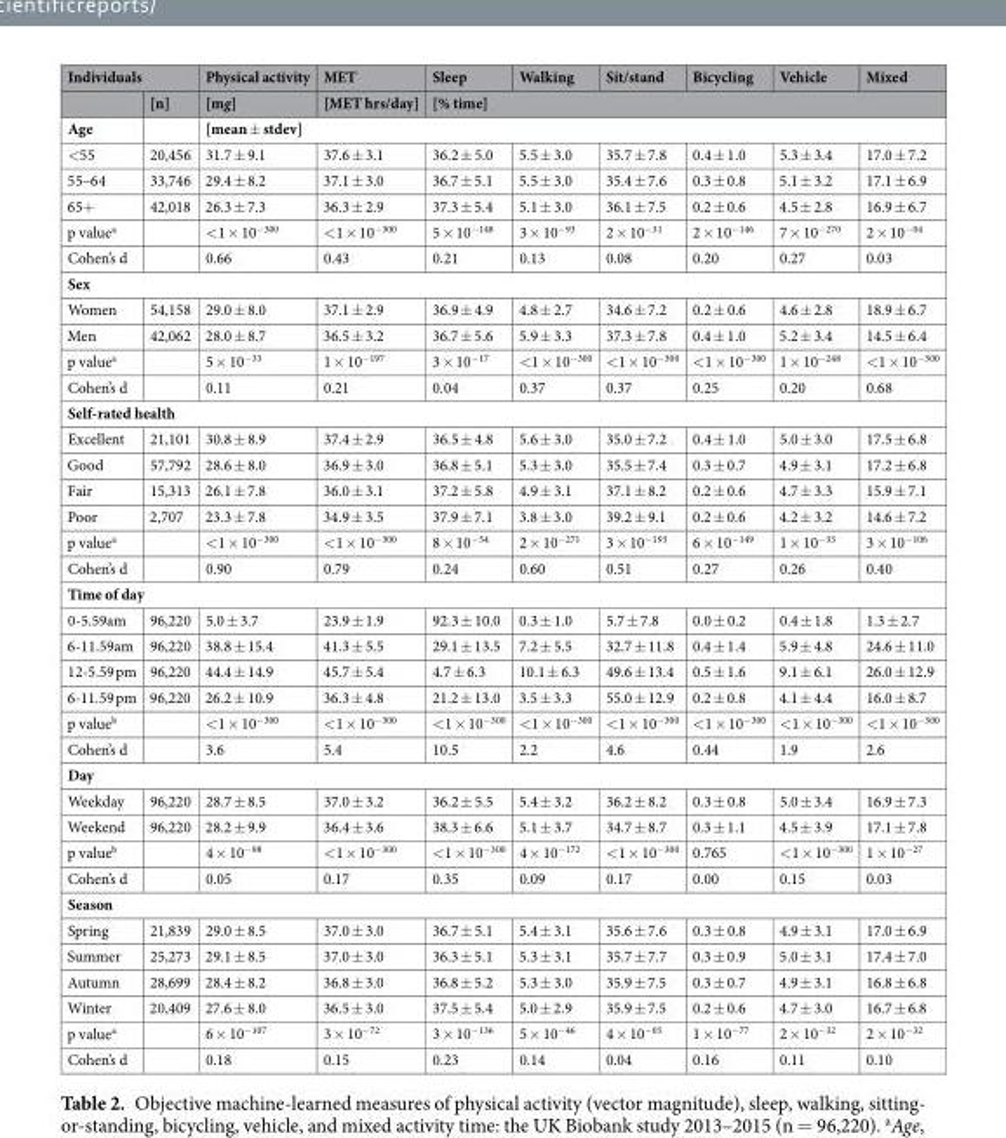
<table><thead><tr><td colspan="2">Individuals</td><td rowspan="2">Physical activity [mg]</td><td rowspan="2">MET [MET hrs/day]</td><td>Sleep</td><td>Walking</td><td>Sit/stand</td><td>Bicycling</td><td>Vehicle</td><td>Mixed</td></tr><tr><td></td><td>[n]</td><td colspan="6">[% time]</td></tr></thead><tbody><tr><td>Age</td><td></td><td colspan="8">[mean ± stdev]</td></tr><tr><td>&lt;55</td><td>20,456</td><td>31.7 ± 9.1</td><td>37.6 ± 3.1</td><td>36.2 ± 5.0</td><td>5.5 ± 3.0</td><td>35.7 ± 7.8</td><td>0.4 ± 1.0</td><td>5.3 ± 3.4</td><td>17.0 ± 7.2</td></tr><tr><td>55–64</td><td>33,746</td><td>29.4 ± 8.2</td><td>37.1 ± 3.0</td><td>36.7 ± 5.1</td><td>5.5 ± 3.0</td><td>35.4 ± 7.6</td><td>0.3 ± 0.8</td><td>5.1 ± 3.2</td><td>17.1 ± 6.9</td></tr><tr><td>65+</td><td>42,018</td><td>26.3 ± 7.3</td><td>36.3 ± 2.9</td><td>37.3 ± 5.4</td><td>5.1 ± 3.0</td><td>36.1 ± 7.5</td><td>0.2 ± 0.6</td><td>4.5 ± 2.8</td><td>16.9 ± 6.7</td></tr><tr><td>p value<sup>a</sup></td><td></td><td>&lt;1 × 10<sup>−300</sup></td><td>&lt;1 × 10<sup>−300</sup></td><td>5 × 10<sup>−148</sup></td><td>3 × 10<sup>−93</sup></td><td>2 × 10<sup>−31</sup></td><td>2 × 10<sup>−146</sup></td><td>7 × 10<sup>−270</sup></td><td>2 × 10<sup>−04</sup></td></tr><tr><td>Cohen’s d</td><td></td><td>0.66</td><td>0.43</td><td>0.21</td><td>0.13</td><td>0.08</td><td>0.20</td><td>0.27</td><td>0.03</td></tr><tr><td colspan="10">Sex</td></tr><tr><td>Women</td><td>54,158</td><td>29.0 ± 8.0</td><td>37.1 ± 2.9</td><td>36.9 ± 4.9</td><td>4.8 ± 2.7</td><td>34.6 ± 7.2</td><td>0.2 ± 0.6</td><td>4.6 ± 2.8</td><td>18.9 ± 6.7</td></tr><tr><td>Men</td><td>42,062</td><td>28.0 ± 8.7</td><td>36.5 ± 3.2</td><td>36.7 ± 5.6</td><td>5.9 ± 3.3</td><td>37.3 ± 7.8</td><td>0.4 ± 1.0</td><td>5.2 ± 3.4</td><td>14.5 ± 6.4</td></tr><tr><td>p value<sup>a</sup></td><td></td><td>5 × 10<sup>−33</sup></td><td>1 × 10<sup>−197</sup></td><td>3 × 10<sup>−17</sup></td><td>&lt;1 × 10<sup>−300</sup></td><td>&lt;1 × 10<sup>−300</sup></td><td>&lt;1 × 10<sup>−300</sup></td><td>1 × 10<sup>−248</sup></td><td>&lt;1 × 10<sup>−300</sup></td></tr><tr><td>Cohen’s d</td><td></td><td>0.11</td><td>0.21</td><td>0.04</td><td>0.37</td><td>0.37</td><td>0.25</td><td>0.20</td><td>0.68</td></tr><tr><td colspan="10">Self-rated health</td></tr><tr><td>Excellent</td><td>21,101</td><td>30.8 ± 8.9</td><td>37.4 ± 2.9</td><td>36.5 ± 4.8</td><td>5.6 ± 3.0</td><td>35.0 ± 7.2</td><td>0.4 ± 1.0</td><td>5.0 ± 3.0</td><td>17.5 ± 6.8</td></tr><tr><td>Good</td><td>57,792</td><td>28.6 ± 8.0</td><td>36.9 ± 3.0</td><td>36.8 ± 5.1</td><td>5.3 ± 3.0</td><td>35.5 ± 7.4</td><td>0.3 ± 0.7</td><td>4.9 ± 3.1</td><td>17.2 ± 6.8</td></tr><tr><td>Fair</td><td>15,313</td><td>26.1 ± 7.8</td><td>36.0 ± 3.1</td><td>37.2 ± 5.8</td><td>4.9 ± 3.1</td><td>37.1 ± 8.2</td><td>0.2 ± 0.6</td><td>4.7 ± 3.3</td><td>15.9 ± 7.1</td></tr><tr><td>Poor</td><td>2,707</td><td>23.3 ± 7.8</td><td>34.9 ± 3.5</td><td>37.9 ± 7.1</td><td>3.8 ± 3.0</td><td>39.2 ± 9.1</td><td>0.2 ± 0.6</td><td>4.2 ± 3.2</td><td>14.6 ± 7.2</td></tr><tr><td>p value<sup>a</sup></td><td></td><td>&lt;1 × 10<sup>−300</sup></td><td>&lt;1 × 10<sup>−300</sup></td><td>8 × 10<sup>−54</sup></td><td>2 × 10<sup>−271</sup></td><td>3 × 10<sup>−193</sup></td><td>6 × 10<sup>−149</sup></td><td>1 × 10<sup>−33</sup></td><td>3 × 10<sup>−106</sup></td></tr><tr><td>Cohen’s d</td><td></td><td>0.90</td><td>0.79</td><td>0.24</td><td>0.60</td><td>0.51</td><td>0.27</td><td>0.26</td><td>0.40</td></tr><tr><td colspan="10">Time of day</td></tr><tr><td>0-5.59am</td><td>96,220</td><td>5.0 ± 3.7</td><td>23.9 ± 1.9</td><td>92.3 ± 10.0</td><td>0.3 ± 1.0</td><td>5.7 ± 7.8</td><td>0.0 ± 0.2</td><td>0.4 ± 1.8</td><td>1.3 ± 2.7</td></tr><tr><td>6-11.59am</td><td>96,220</td><td>38.8 ± 15.4</td><td>41.3 ± 5.5</td><td>29.1 ± 13.5</td><td>7.2 ± 5.5</td><td>32.7 ± 11.8</td><td>0.4 ± 1.4</td><td>5.9 ± 4.8</td><td>24.6 ± 11.0</td></tr><tr><td>12-5.59 pm</td><td>96,220</td><td>44.4 ± 14.9</td><td>45.7 ± 5.4</td><td>4.7 ± 6.3</td><td>10.1 ± 6.3</td><td>49.6 ± 13.4</td><td>0.5 ± 1.6</td><td>9.1 ± 6.1</td><td>26.0 ± 12.9</td></tr><tr><td>6-11.59 pm</td><td>96,220</td><td>26.2 ± 10.9</td><td>36.3 ± 4.8</td><td>21.2 ± 13.0</td><td>3.5 ± 3.3</td><td>55.0 ± 12.9</td><td>0.2 ± 0.8</td><td>4.1 ± 4.4</td><td>16.0 ± 8.7</td></tr><tr><td>p value<sup>b</sup></td><td></td><td>&lt;1 × 10<sup>−300</sup></td><td>&lt;1 × 10<sup>−300</sup></td><td>&lt;1 × 10<sup>−300</sup></td><td>&lt;1 × 10<sup>−300</sup></td><td>&lt;1 × 10<sup>−300</sup></td><td>&lt;1 × 10<sup>−300</sup></td><td>&lt;1 × 10<sup>−300</sup></td><td>&lt;1 × 10<sup>−300</sup></td></tr><tr><td>Cohen’s d</td><td></td><td>3.6</td><td>5.4</td><td>10.5</td><td>2.2</td><td>4.6</td><td>0.44</td><td>1.9</td><td>2.6</td></tr><tr><td colspan="10">Day</td></tr><tr><td>Weekday</td><td>96,220</td><td>28.7 ± 8.5</td><td>37.0 ± 3.2</td><td>36.2 ± 5.5</td><td>5.4 ± 3.2</td><td>36.2 ± 8.2</td><td>0.3 ± 0.8</td><td>5.0 ± 3.4</td><td>16.9 ± 7.3</td></tr><tr><td>Weekend</td><td>96,220</td><td>28.2 ± 9.9</td><td>36.4 ± 3.6</td><td>38.3 ± 6.6</td><td>5.1 ± 3.7</td><td>34.7 ± 8.7</td><td>0.3 ± 1.1</td><td>4.5 ± 3.9</td><td>17.1 ± 7.8</td></tr><tr><td>p value<sup>b</sup></td><td></td><td>4 × 10<sup>−98</sup></td><td>&lt;1 × 10<sup>−300</sup></td><td>&lt;1 × 10<sup>−300</sup></td><td>4 × 10<sup>−172</sup></td><td>&lt;1 × 10<sup>−300</sup></td><td>0.765</td><td>&lt;1 × 10<sup>−300</sup></td><td>1 × 10<sup>−27</sup></td></tr><tr><td>Cohen’s d</td><td></td><td>0.05</td><td>0.17</td><td>0.35</td><td>0.09</td><td>0.17</td><td>0.00</td><td>0.15</td><td>0.03</td></tr><tr><td colspan="10">Season</td></tr><tr><td>Spring</td><td>21,839</td><td>29.0 ± 8.5</td><td>37.0 ± 3.0</td><td>36.7 ± 5.1</td><td>5.4 ± 3.1</td><td>35.6 ± 7.6</td><td>0.3 ± 0.8</td><td>4.9 ± 3.1</td><td>17.0 ± 6.9</td></tr><tr><td>Summer</td><td>25,273</td><td>29.1 ± 8.5</td><td>37.0 ± 3.0</td><td>36.3 ± 5.1</td><td>5.3 ± 3.1</td><td>35.7 ± 7.7</td><td>0.3 ± 0.9</td><td>5.0 ± 3.1</td><td>17.4 ± 7.0</td></tr><tr><td>Autumn</td><td>28,699</td><td>28.4 ± 8.2</td><td>36.8 ± 3.0</td><td>36.8 ± 5.2</td><td>5.3 ± 3.0</td><td>35.9 ± 7.5</td><td>0.3 ± 0.7</td><td>4.9 ± 3.1</td><td>16.8 ± 6.8</td></tr><tr><td>Winter</td><td>20,409</td><td>27.6 ± 8.0</td><td>36.5 ± 3.0</td><td>37.5 ± 5.4</td><td>5.0 ± 2.9</td><td>35.9 ± 7.5</td><td>0.2 ± 0.6</td><td>4.7 ± 3.0</td><td>16.7 ± 6.8</td></tr><tr><td>p value<sup>a</sup></td><td></td><td>6 × 10<sup>−107</sup></td><td>3 × 10<sup>−72</sup></td><td>3 × 10<sup>−136</sup></td><td>5 × 10<sup>−46</sup></td><td>4 × 10<sup>−05</sup></td><td>1 × 10<sup>−77</sup></td><td>2 × 10<sup>−32</sup></td><td>2 × 10<sup>−32</sup></td></tr><tr><td>Cohen’s d</td><td></td><td>0.18</td><td>0.15</td><td>0.23</td><td>0.14</td><td>0.04</td><td>0.16</td><td>0.11</td><td>0.10</td></tr></tbody></table>